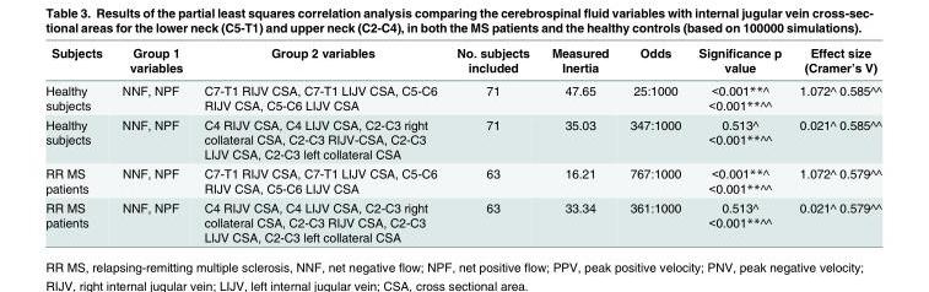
<table><thead><tr><td>Subjects</td><td>Group 1 variables</td><td>Group 2 variables</td><td>No. subjects included</td><td>Measured Inertia</td><td>Odds</td><td>Significance p value</td><td>Effect size (Cramer’s V)</td></tr></thead><tbody><tr><td>Healthy subjects</td><td>NNF, NPF</td><td>C7-T1 RIJV CSA, C7-T1 LIJV CSA, C5-C6 RIJV CSA, C5-C6 LIJV CSA</td><td>71</td><td>47.65</td><td>25:1000</td><td>&lt;0.001**^ &lt;0.001**^^</td><td>1.072^ 0.585^^</td></tr><tr><td>Healthy subjects</td><td>NNF, NPF</td><td>C4 RIJV CSA, C4 LIJV CSA, C2-C3 right collateral CSA, C2-C3 RIJV-CSA, C2-C3 LIJV CSA, C2-C3 left collateral CSA</td><td>71</td><td>35.03</td><td>347:1000</td><td>0.513^ &lt;0.001**^^</td><td>0.021^ 0.585^^</td></tr><tr><td>RR MS patients</td><td>NNF, NPF</td><td>C7-T1 RIJV CSA, C7-T1 LIJV CSA, C5-C6 RIJV CSA, C5-C6 LIJV CSA</td><td>63</td><td>16.21</td><td>767:1000</td><td>&lt;0.001**^ &lt;0.001**^^</td><td>1.072^ 0.579^^</td></tr><tr><td>RR MS patients</td><td>NNF, NPF</td><td>C4 RIJV CSA, C4 LIJV CSA, C2-C3 right collateral CSA, C2-C3 RIJV CSA, C2-C3 LIJV CSA, C2-C3 left collateral CSA</td><td>63</td><td>33.34</td><td>361:1000</td><td>0.513^ &lt;0.001**^^</td><td>0.021^ 0.579^^</td></tr></tbody></table>